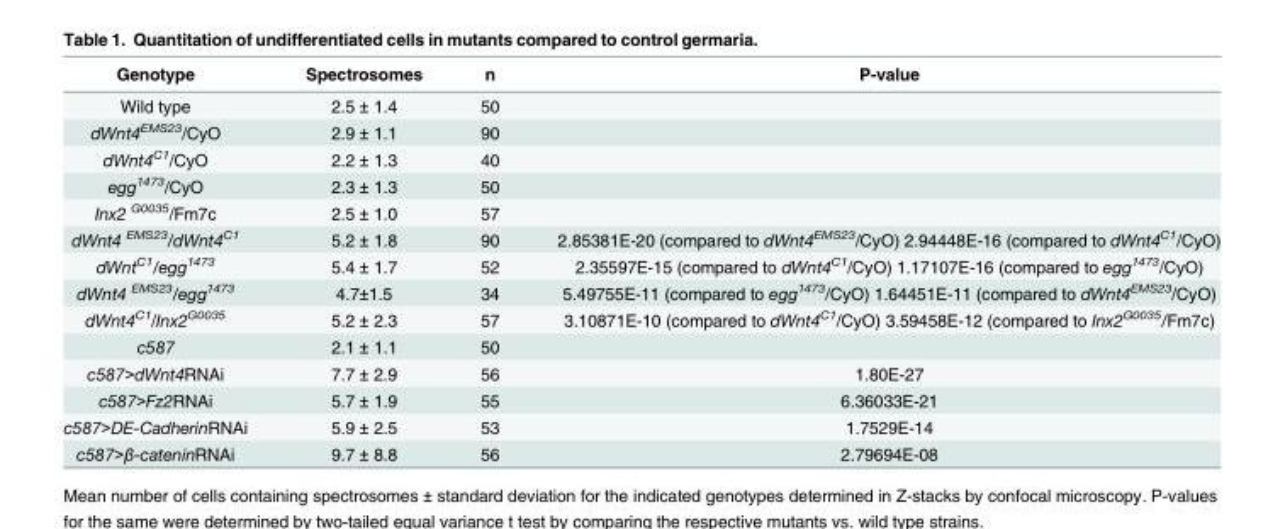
<table><thead><tr><td>Genotype</td><td>Spectrosomes</td><td>n</td><td>P-value</td></tr></thead><tbody><tr><td>Wild type</td><td>2.5 ± 1.4</td><td>50</td><td></td></tr><tr><td>dWnt4<sup>EMS23</sup>/CyO</td><td>2.9 ± 1.1</td><td>90</td><td></td></tr><tr><td>dWnt4<sup>C1</sup>/CyO</td><td>2.2 ± 1.3</td><td>40</td><td></td></tr><tr><td>egg<sup>1473</sup>/CyO</td><td>2.3 ± 1.3</td><td>50</td><td></td></tr><tr><td>Inx2 <sup>G0035</sup>/Fm7c</td><td>2.5 ± 1.0</td><td>57</td><td></td></tr><tr><td>dWnt4 <sup>EMS23</sup>/dWnt4<sup>C1</sup></td><td>5.2 ± 1.8</td><td>90</td><td>2.85381E-20 (compared to dWnt4<sup>EMS23</sup>/CyO) 2.94448E-16 (compared to dWnt4<sup>C1</sup>/CyO)</td></tr><tr><td>dWnt<sup>C1</sup>/egg<sup>1473</sup></td><td>5.4 ± 1.7</td><td>52</td><td>2.35597E-15 (compared to dWnt4<sup>C1</sup>/CyO) 1.17107E-16 (compared to egg<sup>1473</sup>/CyO)</td></tr><tr><td>dWnt4 <sup>EMS23</sup>/egg<sup>1473</sup></td><td>4.7±1.5</td><td>34</td><td>5.49755E-11 (compared to egg<sup>1473</sup>/CyO) 1.64451E-11 (compared to dWnt4<sup>EMS23</sup>/CyO)</td></tr><tr><td>dWnt4<sup>C1</sup>/Inx2<sup>G0035</sup></td><td>5.2 ± 2.3</td><td>57</td><td>3.10871E-10 (compared to dWnt4<sup>C1</sup>/CyO) 3.59458E-12 (compared to Inx2<sup>G0035</sup>/Fm7c)</td></tr><tr><td>c587</td><td>2.1 ± 1.1</td><td>50</td><td></td></tr><tr><td>c587&gt;dWnt4RNAi</td><td>7.7 ± 2.9</td><td>56</td><td>1.80E-27</td></tr><tr><td>c587&gt;Fz2RNAi</td><td>5.7 ± 1.9</td><td>55</td><td>6.36033E-21</td></tr><tr><td>c587&gt;DE-CadherinRNAi</td><td>5.9 ± 2.5</td><td>53</td><td>1.7529E-14</td></tr><tr><td>c587&gt;β-cateninRNAi</td><td>9.7 ± 8.8</td><td>56</td><td>2.79694E-08</td></tr></tbody></table>